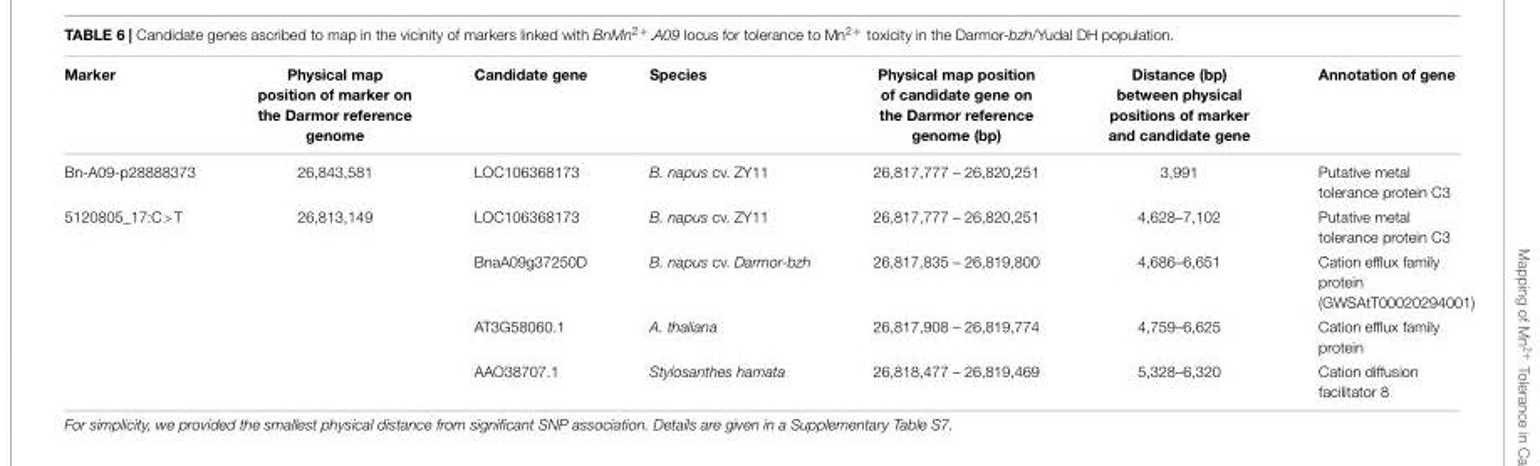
<table><thead><tr><td>Marker</td><td>Physical map position of marker on the Darmor reference genome</td><td>Candidate gene</td><td>Species</td><td>Physical map position of candidate gene on the Darmor reference genome (bp)</td><td>Distance (bp) between physical positions of marker and candidate gene</td><td>Annotation of gene</td></tr></thead><tbody><tr><td>Bn-A09-p28888373</td><td>26,843,581</td><td>LOC106368173</td><td>B. napus cv. ZY11</td><td>26,817,777 – 26,820,251</td><td>3,991</td><td>Putative metal tolerance protein C3</td></tr><tr><td rowspan="4">5120805_17:C&gt;T</td><td>26,813,149</td><td>LOC106368173</td><td>B. napus cv. ZY11</td><td>26,817,777 – 26,820,251</td><td>4,628–7,102</td><td>Putative metal tolerance protein C3</td></tr><tr><td></td><td>BnaA09g37250D</td><td>B. napus cv. Darmor-bzh</td><td>26,817,835 – 26,819,800</td><td>4,686–6,651</td><td>Cation efflux family protein (GWSAtT00020294001)</td></tr><tr><td></td><td>AT3G58060.1</td><td>A. thaliana</td><td>26,817,908 – 26,819,774</td><td>4,759–6,625</td><td>Cation efflux family protein</td></tr><tr><td></td><td>AAO38707.1</td><td>Stylosanthes hamata</td><td>26,818,477 – 26,819,469</td><td>5,328–6,320</td><td>Cation diffusion facilitator 8</td></tr></tbody></table>